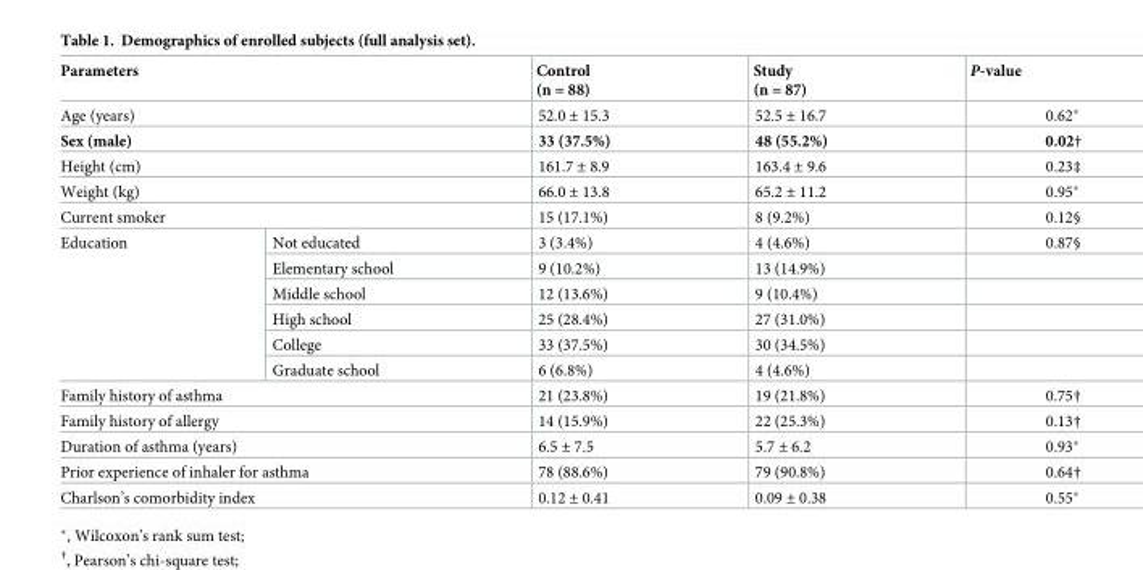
<table><thead><tr><td colspan="2">Parameters</td><td>Control (n = 88)</td><td>Study (n = 87)</td><td>P-value</td></tr></thead><tbody><tr><td colspan="2">Age (years)</td><td>52.0 ± 15.3</td><td>52.5 ± 16.7</td><td>0.62*</td></tr><tr><td colspan="2">Sex (male)</td><td>33 (37.5%)</td><td>48 (55.2%)</td><td>0.02†</td></tr><tr><td colspan="2">Height (cm)</td><td>161.7 ± 8.9</td><td>163.4 ± 9.6</td><td>0.23‡</td></tr><tr><td colspan="2">Weight (kg)</td><td>66.0 ± 13.8</td><td>65.2 ± 11.2</td><td>0.95*</td></tr><tr><td colspan="2">Current smoker</td><td>15 (17.1%)</td><td>8 (9.2%)</td><td>0.12§</td></tr><tr><td rowspan="6">Education</td><td>Not educated</td><td>3 (3.4%)</td><td>4 (4.6%)</td><td>0.87§</td></tr><tr><td>Elementary school</td><td>9 (10.2%)</td><td>13 (14.9%)</td><td></td></tr><tr><td>Middle school</td><td>12 (13.6%)</td><td>9 (10.4%)</td><td></td></tr><tr><td>High school</td><td>25 (28.4%)</td><td>27 (31.0%)</td><td></td></tr><tr><td>College</td><td>33 (37.5%)</td><td>30 (34.5%)</td><td></td></tr><tr><td>Graduate school</td><td>6 (6.8%)</td><td>4 (4.6%)</td><td></td></tr><tr><td colspan="2">Family history of asthma</td><td>21 (23.8%)</td><td>19 (21.8%)</td><td>0.75†</td></tr><tr><td colspan="2">Family history of allergy</td><td>14 (15.9%)</td><td>22 (25.3%)</td><td>0.13†</td></tr><tr><td colspan="2">Duration of asthma (years)</td><td>6.5 ± 7.5</td><td>5.7 ± 6.2</td><td>0.93*</td></tr><tr><td colspan="2">Prior experience of inhaler for asthma</td><td>78 (88.6%)</td><td>79 (90.8%)</td><td>0.64†</td></tr><tr><td colspan="2">Charlson’s comorbidity index</td><td>0.12 ± 0.41</td><td>0.09 ± 0.38</td><td>0.55*</td></tr></tbody></table>